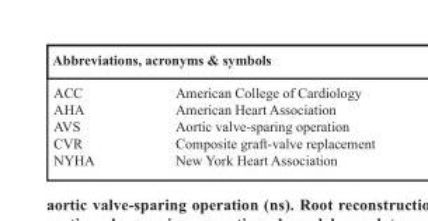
<table><thead><tr><td colspan="2">Abbreviations, acronyms &amp; symbols</td></tr><tr><td>ACC</td><td>American College of Cardiology</td></tr></thead><tbody><tr><td>AHA</td><td>American Heart Association</td></tr><tr><td>AVS</td><td>Aortic valve-sparing operation</td></tr><tr><td>CVR</td><td>Composite graft-valve replacement</td></tr><tr><td>NYHA</td><td>New York Heart Association</td></tr></tbody></table>